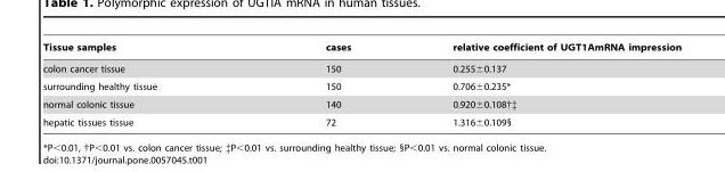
<table><thead><tr><td>Tissue samples</td><td>cases</td><td>relative coefficient of UGT1AmRNA impression</td></tr></thead><tbody><tr><td>colon cancer tissue</td><td>150</td><td>0.255±0.137</td></tr><tr><td>surrounding healthy tissue</td><td>150</td><td>0.706±0.235*</td></tr><tr><td>normal colonic tissue</td><td>140</td><td>0.920±0.108†‡</td></tr><tr><td>hepatic tissues tissue</td><td>72</td><td>1.316±0.109§</td></tr></tbody></table>